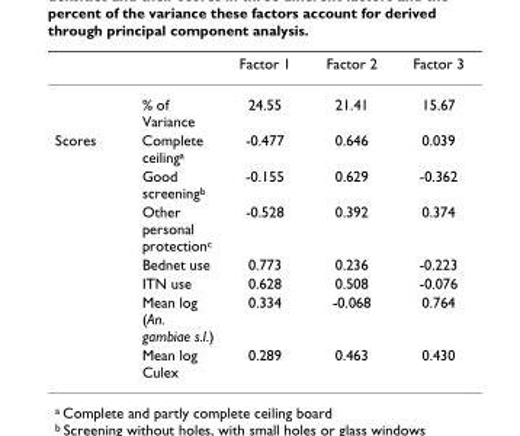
<table><thead><tr><td></td><td></td><td>Factor 1</td><td>Factor 2</td><td>Factor 3</td></tr></thead><tbody><tr><td></td><td>% of Variance</td><td>24.55</td><td>21.41</td><td>15.67</td></tr><tr><td rowspan="7">Scores</td><td>Complete ceiling<sup>a</sup></td><td>-0.477</td><td>0.646</td><td>0.039</td></tr><tr><td>Good screening<sup>b</sup></td><td>-0.155</td><td>0.629</td><td>-0.362</td></tr><tr><td>Other personal protection<sup>c</sup></td><td>-0.528</td><td>0.392</td><td>0.374</td></tr><tr><td>Bednet use</td><td>0.773</td><td>0.236</td><td>-0.223</td></tr><tr><td>ITN use</td><td>0.628</td><td>0.508</td><td>-0.076</td></tr><tr><td>Mean log (An. gambiae s.l.)</td><td>0.334</td><td>-0.068</td><td>0.764</td></tr><tr><td>Mean log Culex</td><td>0.289</td><td>0.463</td><td>0.430</td></tr></tbody></table>